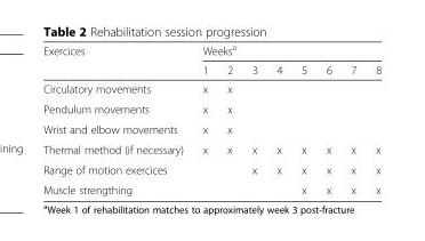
<table><thead><tr><td rowspan="2">Exercices</td><td colspan="8">Weeks<sup>a</sup></td></tr><tr><td>1</td><td>2</td><td>3</td><td>4</td><td>5</td><td>6</td><td>7</td><td>8</td></tr></thead><tbody><tr><td>Circulatory movements</td><td>x</td><td>x</td><td></td><td></td><td></td><td></td><td></td><td></td></tr><tr><td>Pendulum movements</td><td>x</td><td>x</td><td></td><td></td><td></td><td></td><td></td><td></td></tr><tr><td>Wrist and elbow movements</td><td>x</td><td>x</td><td></td><td></td><td></td><td></td><td></td><td></td></tr><tr><td>Thermal method (if necessary)</td><td>x</td><td>x</td><td>x</td><td>x</td><td>x</td><td>x</td><td>x</td><td>x</td></tr><tr><td>Range of motion exercices</td><td></td><td></td><td>x</td><td>x</td><td>x</td><td>x</td><td>x</td><td>x</td></tr><tr><td>Muscle strengthing</td><td></td><td></td><td></td><td></td><td>x</td><td>x</td><td>x</td><td>x</td></tr></tbody></table>